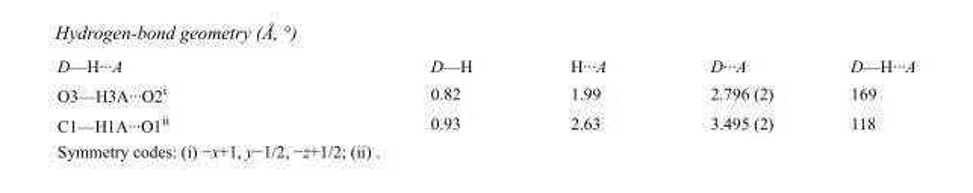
<table><tbody><tr><td>D—H···A</td><td>D—H</td><td>H···A</td><td>D···A</td><td>D—H···A</td></tr><tr><td>O3—H3A···O2<sup>i</sup></td><td>0.82</td><td>1.99</td><td>2.796 (2)</td><td>169</td></tr><tr><td>C1—H1A···O1<sup>ii</sup></td><td>0.93</td><td>2.63</td><td>3.495 (2)</td><td>118</td></tr></tbody></table>